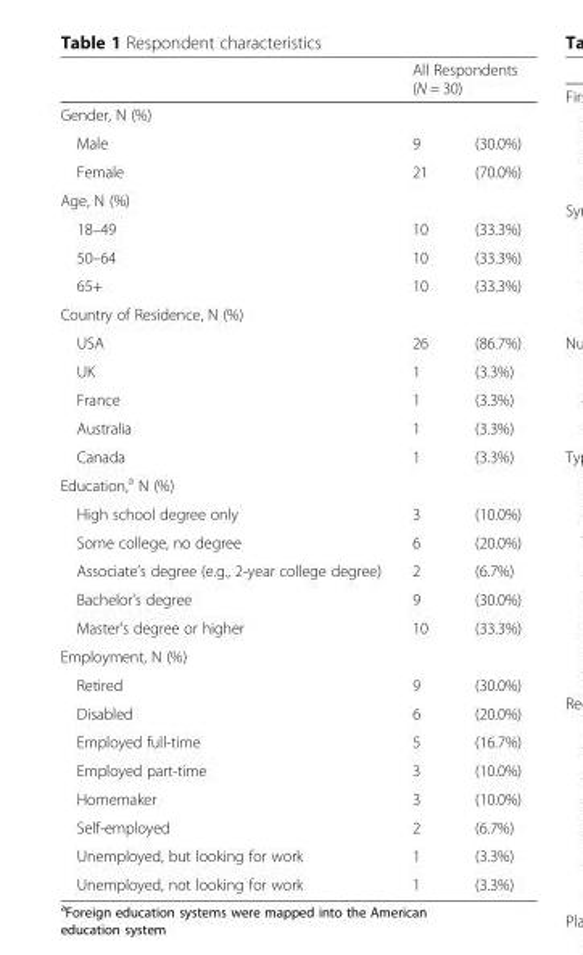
<table><thead><tr><td></td><td colspan="2">All Respondents (N = 30)</td></tr><tr><td colspan="3">Gender, N (%)</td></tr><tr><td>Male</td><td>9</td><td>(30.0%)</td></tr></thead><tbody><tr><td>Female</td><td>21</td><td>(70.0%)</td></tr><tr><td colspan="3">Age, N (%)</td></tr><tr><td>18–49</td><td>10</td><td>(33.3%)</td></tr><tr><td>50–64</td><td>10</td><td>(33.3%)</td></tr><tr><td>65+</td><td>10</td><td>(33.3%)</td></tr><tr><td colspan="3">Country of Residence, N (%)</td></tr><tr><td>USA</td><td>26</td><td>(86.7%)</td></tr><tr><td>UK</td><td>1</td><td>(3.3%)</td></tr><tr><td>France</td><td>1</td><td>(3.3%)</td></tr><tr><td>Australia</td><td>1</td><td>(3.3%)</td></tr><tr><td>Canada</td><td>1</td><td>(3.3%)</td></tr><tr><td colspan="3">Education,<sup>a</sup> N (%)</td></tr><tr><td>High school degree only</td><td>3</td><td>(10.0%)</td></tr><tr><td>Some college, no degree</td><td>6</td><td>(20.0%)</td></tr><tr><td>Associate’s degree (e.g., 2-year college degree)</td><td>2</td><td>(6.7%)</td></tr><tr><td>Bachelor’s degree</td><td>9</td><td>(30.0%)</td></tr><tr><td>Master’s degree or higher</td><td>10</td><td>(33.3%)</td></tr><tr><td colspan="3">Employment, N (%)</td></tr><tr><td>Retired</td><td>9</td><td>(30.0%)</td></tr><tr><td>Disabled</td><td>6</td><td>(20.0%)</td></tr><tr><td>Employed full-time</td><td>5</td><td>(16.7%)</td></tr><tr><td>Employed part-time</td><td>3</td><td>(10.0%)</td></tr><tr><td>Homemaker</td><td>3</td><td>(10.0%)</td></tr><tr><td>Self-employed</td><td>2</td><td>(6.7%)</td></tr><tr><td>Unemployed, but looking for work</td><td>1</td><td>(3.3%)</td></tr><tr><td>Unemployed, not looking for work</td><td>1</td><td>(3.3%)</td></tr></tbody></table>